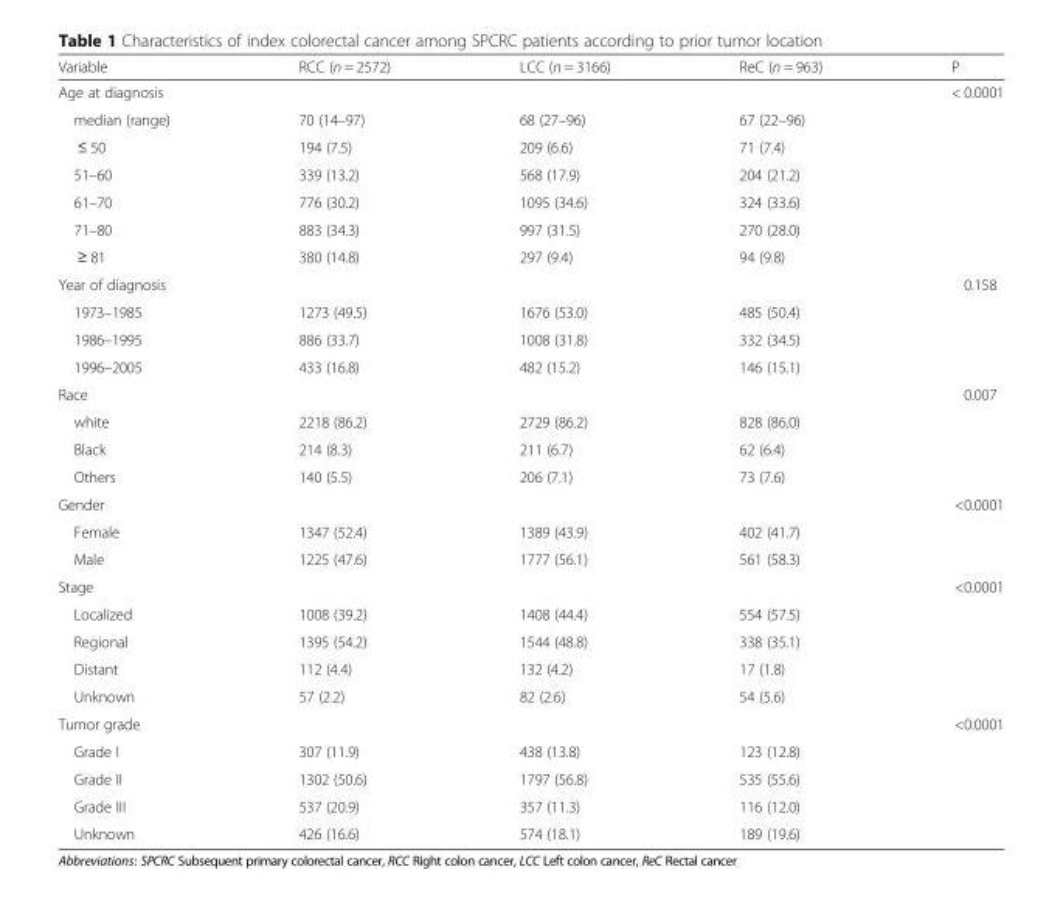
<table><thead><tr><td>Variable</td><td>RCC (n = 2572)</td><td>LCC (n = 3166)</td><td>ReC (n = 963)</td><td>P</td></tr></thead><tbody><tr><td>Age at diagnosis</td><td></td><td></td><td></td><td>&lt; 0.0001</td></tr><tr><td>median (range)</td><td>70 (14–97)</td><td>68 (27–96)</td><td>67 (22–96)</td><td></td></tr><tr><td>≤ 50</td><td>194 (7.5)</td><td>209 (6.6)</td><td>71 (7.4)</td><td></td></tr><tr><td>51–60</td><td>339 (13.2)</td><td>568 (17.9)</td><td>204 (21.2)</td><td></td></tr><tr><td>61–70</td><td>776 (30.2)</td><td>1095 (34.6)</td><td>324 (33.6)</td><td></td></tr><tr><td>71–80</td><td>883 (34.3)</td><td>997 (31.5)</td><td>270 (28.0)</td><td></td></tr><tr><td>≥ 81</td><td>380 (14.8)</td><td>297 (9.4)</td><td>94 (9.8)</td><td></td></tr><tr><td>Year of diagnosis</td><td></td><td></td><td></td><td>0.158</td></tr><tr><td>1973–1985</td><td>1273 (49.5)</td><td>1676 (53.0)</td><td>485 (50.4)</td><td></td></tr><tr><td>1986–1995</td><td>886 (33.7)</td><td>1008 (31.8)</td><td>332 (34.5)</td><td></td></tr><tr><td>1996–2005</td><td>433 (16.8)</td><td>482 (15.2)</td><td>146 (15.1)</td><td></td></tr><tr><td>Race</td><td></td><td></td><td></td><td>0.007</td></tr><tr><td>white</td><td>2218 (86.2)</td><td>2729 (86.2)</td><td>828 (86.0)</td><td></td></tr><tr><td>Black</td><td>214 (8.3)</td><td>211 (6.7)</td><td>62 (6.4)</td><td></td></tr><tr><td>Others</td><td>140 (5.5)</td><td>206 (7.1)</td><td>73 (7.6)</td><td></td></tr><tr><td>Gender</td><td></td><td></td><td></td><td>&lt;0.0001</td></tr><tr><td>Female</td><td>1347 (52.4)</td><td>1389 (43.9)</td><td>402 (41.7)</td><td></td></tr><tr><td>Male</td><td>1225 (47.6)</td><td>1777 (56.1)</td><td>561 (58.3)</td><td></td></tr><tr><td>Stage</td><td></td><td></td><td></td><td>&lt;0.0001</td></tr><tr><td>Localized</td><td>1008 (39.2)</td><td>1408 (44.4)</td><td>554 (57.5)</td><td></td></tr><tr><td>Regional</td><td>1395 (54.2)</td><td>1544 (48.8)</td><td>338 (35.1)</td><td></td></tr><tr><td>Distant</td><td>112 (4.4)</td><td>132 (4.2)</td><td>17 (1.8)</td><td></td></tr><tr><td>Unknown</td><td>57 (2.2)</td><td>82 (2.6)</td><td>54 (5.6)</td><td></td></tr><tr><td>Tumor grade</td><td></td><td></td><td></td><td>&lt;0.0001</td></tr><tr><td>Grade I</td><td>307 (11.9)</td><td>438 (13.8)</td><td>123 (12.8)</td><td></td></tr><tr><td>Grade II</td><td>1302 (50.6)</td><td>1797 (56.8)</td><td>535 (55.6)</td><td></td></tr><tr><td>Grade III</td><td>537 (20.9)</td><td>357 (11.3)</td><td>116 (12.0)</td><td></td></tr><tr><td>Unknown</td><td>426 (16.6)</td><td>574 (18.1)</td><td>189 (19.6)</td><td></td></tr></tbody></table>